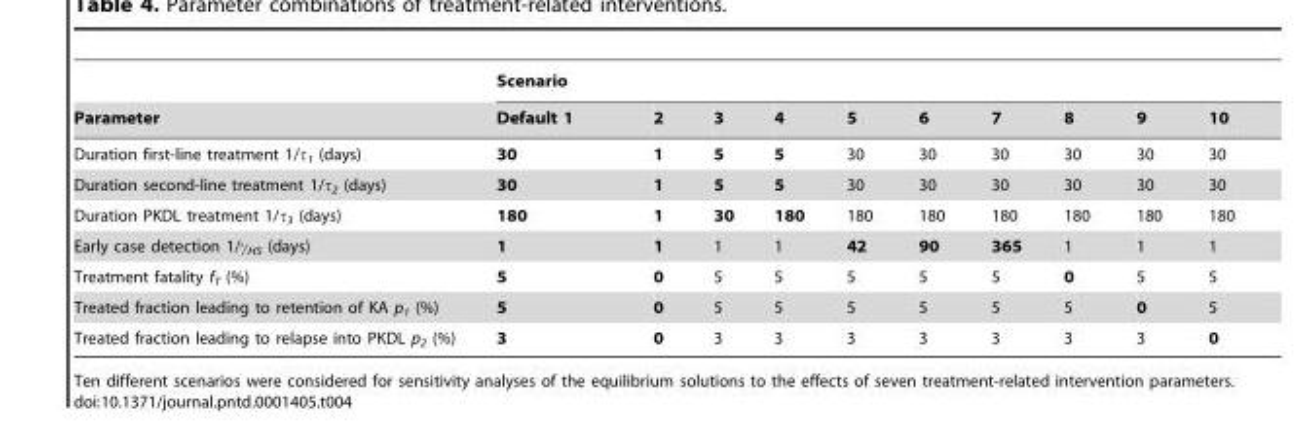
<table><thead><tr><td rowspan="2">Parameter</td><td colspan="10">Scenario</td></tr><tr><td>Default 1</td><td>2</td><td>3</td><td>4</td><td>5</td><td>6</td><td>7</td><td>8</td><td>9</td><td>10</td></tr></thead><tbody><tr><td>Duration first-line treatment 1/τ<sub>1</sub> (days)</td><td>30</td><td>1</td><td>5</td><td>5</td><td>30</td><td>30</td><td>30</td><td>30</td><td>30</td><td>30</td></tr><tr><td>Duration second-line treatment 1/τ<sub>2</sub> (days)</td><td>30</td><td>1</td><td>5</td><td>5</td><td>30</td><td>30</td><td>30</td><td>30</td><td>30</td><td>30</td></tr><tr><td>Duration PKDL treatment 1/τ<sub>3</sub> (days)</td><td>180</td><td>1</td><td>30</td><td>180</td><td>180</td><td>180</td><td>180</td><td>180</td><td>180</td><td>180</td></tr><tr><td>Early case detection 1/γ<sub>HS</sub> (days)</td><td>1</td><td>1</td><td>1</td><td>1</td><td>42</td><td>90</td><td>365</td><td>1</td><td>1</td><td>1</td></tr><tr><td>Treatment fatality f<sub>T</sub> (%)</td><td>5</td><td>0</td><td>5</td><td>5</td><td>5</td><td>5</td><td>5</td><td>0</td><td>5</td><td>5</td></tr><tr><td>Treated fraction leading to retention of KA p<sub>1</sub> (%)</td><td>5</td><td>0</td><td>5</td><td>5</td><td>5</td><td>5</td><td>5</td><td>5</td><td>0</td><td>5</td></tr><tr><td>Treated fraction leading to relapse into PKDL p<sub>2</sub> (%)</td><td>3</td><td>0</td><td>3</td><td>3</td><td>3</td><td>3</td><td>3</td><td>3</td><td>3</td><td>0</td></tr></tbody></table>